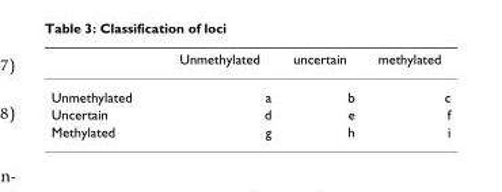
<table><thead><tr><td></td><td>Unmethylated</td><td>uncertain</td><td>methylated</td></tr></thead><tbody><tr><td>Unmethylated</td><td>a</td><td>b</td><td>c</td></tr><tr><td>Uncertain</td><td>d</td><td>e</td><td>f</td></tr><tr><td>Methylated</td><td>g</td><td>h</td><td>i</td></tr></tbody></table>